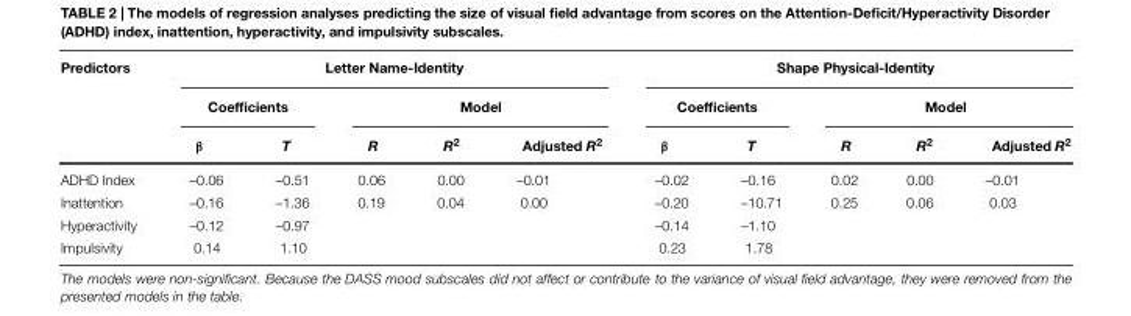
<table><thead><tr><td rowspan="3">Predictors</td><td colspan="5">Letter Name-Identity</td><td colspan="5">Shape Physical-Identity</td></tr><tr><td colspan="2">Coefficients</td><td colspan="3">Model</td><td colspan="2">Coefficients</td><td colspan="3">Model</td></tr><tr><td>β</td><td>T</td><td>R</td><td>R<sup>2</sup></td><td>Adjusted R<sup>2</sup></td><td>β</td><td>T</td><td>R</td><td>R<sup>2</sup></td><td>Adjusted R<sup>2</sup></td></tr></thead><tbody><tr><td>ADHD Index</td><td>–0.06</td><td>–0.51</td><td>0.06</td><td>0.00</td><td>–0.01</td><td>–0.02</td><td>–0.16</td><td>0.02</td><td>0.00</td><td>–0.01</td></tr><tr><td>Inattention</td><td>–0.16</td><td>–1.36</td><td>0.19</td><td>0.04</td><td>0.00</td><td>–0.20</td><td>–10.71</td><td>0.25</td><td>0.06</td><td>0.03</td></tr><tr><td>Hyperactivity</td><td>–0.12</td><td>–0.97</td><td></td><td></td><td></td><td>–0.14</td><td>–1.10</td><td></td><td></td><td></td></tr><tr><td>Impulsivity</td><td>0.14</td><td>1.10</td><td></td><td></td><td></td><td>0.23</td><td>1.78</td><td></td><td></td><td></td></tr></tbody></table>